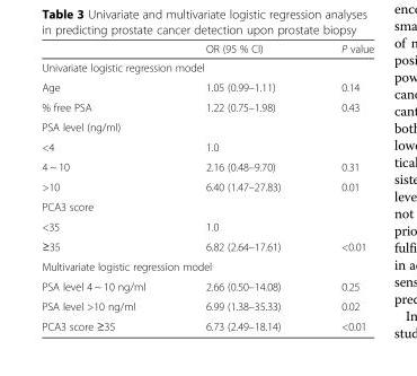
<table><thead><tr><td></td><td>OR (95 % CI)</td><td>P value</td></tr></thead><tbody><tr><td colspan="3">Univariate logistic regression model</td></tr><tr><td>Age</td><td>1.05 (0.99–1.11)</td><td>0.14</td></tr><tr><td>% free PSA</td><td>1.22 (0.75–1.98)</td><td>0.43</td></tr><tr><td colspan="3">PSA level (ng/ml)</td></tr><tr><td>&lt;4</td><td>1.0</td><td></td></tr><tr><td>4 ~ 10</td><td>2.16 (0.48–9.70)</td><td>0.31</td></tr><tr><td>&gt;10</td><td>6.40 (1.47–27.83)</td><td>0.01</td></tr><tr><td colspan="3">PCA3 score</td></tr><tr><td>&lt;35</td><td>1.0</td><td></td></tr><tr><td>≥35</td><td>6.82 (2.64–17.61)</td><td>&lt;0.01</td></tr><tr><td colspan="3">Multivariate logistic regression model</td></tr><tr><td>PSA level 4 ~ 10 ng/ml</td><td>2.66 (0.50–14.08)</td><td>0.25</td></tr><tr><td>PSA level &gt;10 ng/ml</td><td>6.99 (1.38–35.33)</td><td>0.02</td></tr><tr><td>PCA3 score ≥35</td><td>6.73 (2.49–18.14)</td><td>&lt;0.01</td></tr></tbody></table>